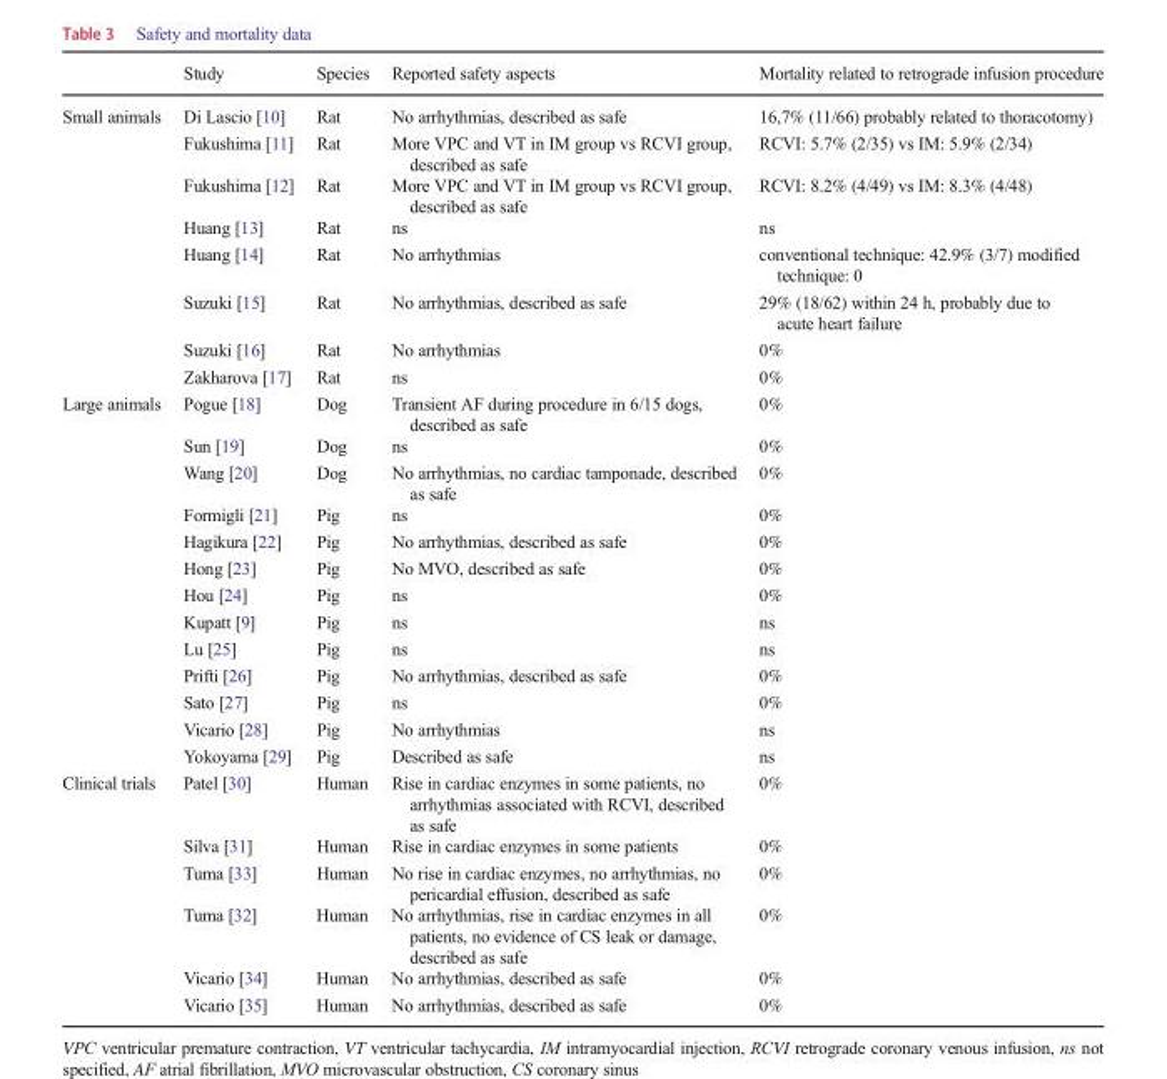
<table><thead><tr><td></td><td>Study</td><td>Species</td><td>Reported safety aspects</td><td>Mortality related to retrograde infusion procedure</td></tr></thead><tbody><tr><td rowspan="8">Small animals</td><td>Di Lascio [10]</td><td>Rat</td><td>No arrhythmias, described as safe</td><td>16,7% (11/66) probably related to thoracotomy)</td></tr><tr><td>Fukushima [11]</td><td>Rat</td><td>More VPC and VT in IM group vs RCVI group, described as safe</td><td>RCVI: 5.7% (2/35) vs IM: 5.9% (2/34)</td></tr><tr><td>Fukushima [12]</td><td>Rat</td><td>More VPC and VT in IM group vs RCVI group, described as safe</td><td>RCVI: 8.2% (4/49) vs IM: 8.3% (4/48)</td></tr><tr><td>Huang [13]</td><td>Rat</td><td>ns</td><td>ns</td></tr><tr><td>Huang [14]</td><td>Rat</td><td>No arrhythmias</td><td>conventional technique: 42.9% (3/7) modified technique: 0</td></tr><tr><td>Suzuki [15]</td><td>Rat</td><td>No arrhythmias, described as safe</td><td>29% (18/62) within 24 h, probably due to acute heart failure</td></tr><tr><td>Suzuki [16]</td><td>Rat</td><td>No arrhythmias</td><td>0%</td></tr><tr><td>Zakharova [17]</td><td>Rat</td><td>ns</td><td>0%</td></tr><tr><td rowspan="13">Large animals</td><td>Pogue [18]</td><td>Dog</td><td>Transient AF during procedure in 6/15 dogs, described as safe</td><td>0%</td></tr><tr><td>Sun [19]</td><td>Dog</td><td>ns</td><td>0%</td></tr><tr><td>Wang [20]</td><td>Dog</td><td>No arrhythmias, no cardiac tamponade, described as safe</td><td>0%</td></tr><tr><td>Formigli [21]</td><td>Pig</td><td>ns</td><td>0%</td></tr><tr><td>Hagikura [22]</td><td>Pig</td><td>No arrhythmias, described as safe</td><td>0%</td></tr><tr><td>Hong [23]</td><td>Pig</td><td>No MVO, described as safe</td><td>0%</td></tr><tr><td>Hou [24]</td><td>Pig</td><td>ns</td><td>0%</td></tr><tr><td>Kupatt [9]</td><td>Pig</td><td>ns</td><td>ns</td></tr><tr><td>Lu [25]</td><td>Pig</td><td>ns</td><td>ns</td></tr><tr><td>Prifti [26]</td><td>Pig</td><td>No arrhythmias, described as safe</td><td>0%</td></tr><tr><td>Sato [27]</td><td>Pig</td><td>ns</td><td>0%</td></tr><tr><td>Vicario [28]</td><td>Pig</td><td>No arrhythmias</td><td>ns</td></tr><tr><td>Yokoyama [29]</td><td>Pig</td><td>Described as safe</td><td>ns</td></tr><tr><td rowspan="6">Clinical trials</td><td>Patel [30]</td><td>Human</td><td>Rise in cardiac enzymes in some patients, no arrhythmias associated with RCVI, described as safe</td><td>0%</td></tr><tr><td>Silva [31]</td><td>Human</td><td>Rise in cardiac enzymes in some patients</td><td>0%</td></tr><tr><td>Tuma [33]</td><td>Human</td><td>No rise in cardiac enzymes, no arrhythmias, no pericardial effusion, described as safe</td><td>0%</td></tr><tr><td>Tuma [32]</td><td>Human</td><td>No arrhythmias, rise in cardiac enzymes in all patients, no evidence of CS leak or damage, described as safe</td><td>0%</td></tr><tr><td>Vicario [34]</td><td>Human</td><td>No arrhythmias, described as safe</td><td>0%</td></tr><tr><td>Vicario [35]</td><td>Human</td><td>No arrhythmias, described as safe</td><td>0%</td></tr></tbody></table>